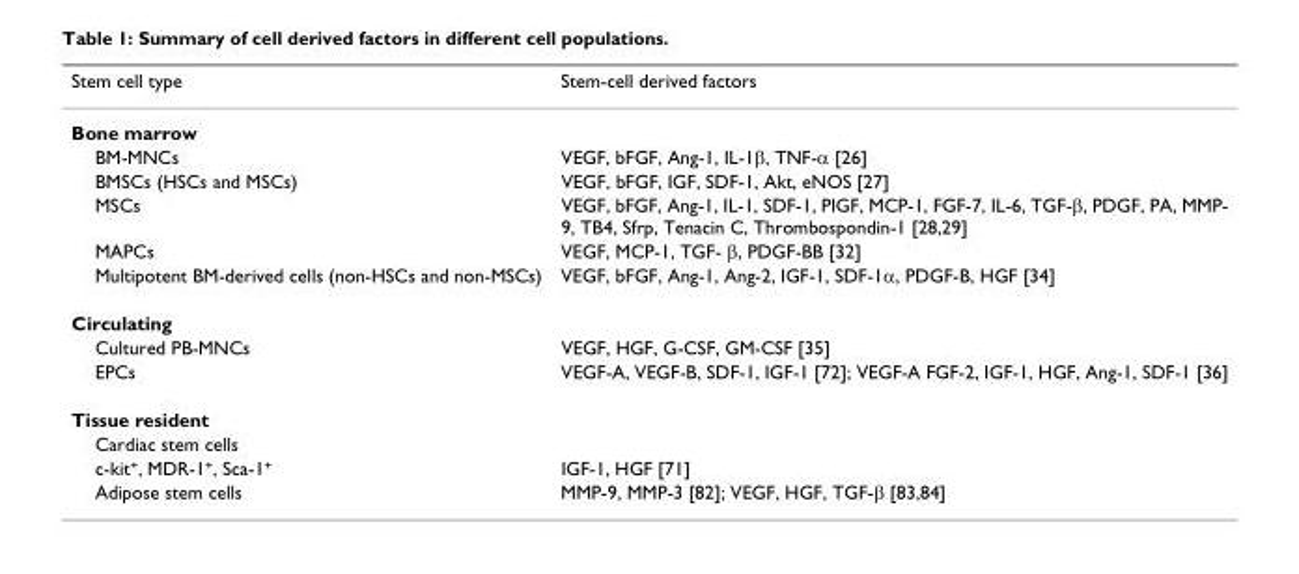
<table><thead><tr><td>Stem cell type</td><td>Stem-cell derived factors</td></tr></thead><tbody><tr><td colspan="2">Bone marrow</td></tr><tr><td>BM-MNCs</td><td>VEGF, bFGF, Ang-1, IL-1β, TNF-α [26]</td></tr><tr><td>BMSCs (HSCs and MSCs)</td><td>VEGF, bFGF, IGF, SDF-1, Akt, eNOS [27]</td></tr><tr><td>MSCs</td><td>VEGF, bFGF, Ang-1, IL-1, SDF-1, PIGF, MCP-1, FGF-7, IL-6, TGF-β, PDGF, PA, MMP- 9, TB4, Sfrp, Tenacin C, Thrombospondin-1 [28,29]</td></tr><tr><td>MAPCs</td><td>VEGF, MCP-1, TGF- β, PDGF-BB [32]</td></tr><tr><td>Multipotent BM-derived cells (non-HSCs and non-MSCs)</td><td>VEGF, bFGF, Ang-1, Ang-2, IGF-1, SDF-1α, PDGF-B, HGF [34]</td></tr><tr><td colspan="2">Circulating</td></tr><tr><td>Cultured PB-MNCs</td><td>VEGF, HGF, G-CSF, GM-CSF [35]</td></tr><tr><td>EPCs</td><td>VEGF-A, VEGF-B, SDF-1, IGF-1 [72]; VEGF-A FGF-2, IGF-1, HGF, Ang-1, SDF-1 [36]</td></tr><tr><td colspan="2">Tissue resident</td></tr><tr><td colspan="2">Cardiac stem cells</td></tr><tr><td>c-kit<sup>+</sup>, MDR-1<sup>+</sup>, Sca-1<sup>+</sup></td><td>IGF-1, HGF [71]</td></tr><tr><td>Adipose stem cells</td><td>MMP-9, MMP-3 [82]; VEGF, HGF, TGF-β [83,84]</td></tr></tbody></table>